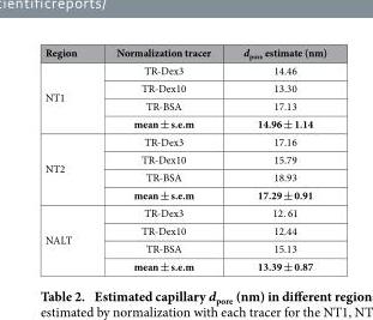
<table><thead><tr><td>Region</td><td>Normalization tracer</td><td>d<sub>pore</sub> estimate (nm)</td></tr></thead><tbody><tr><td rowspan="4">NT1</td><td>TR-Dex3</td><td>14.46</td></tr><tr><td>TR-Dex10</td><td>13.30</td></tr><tr><td>TR-BSA</td><td>17.13</td></tr><tr><td>mean ± s.e.m</td><td>14.96 ± 1.14</td></tr><tr><td rowspan="4">NT2</td><td>TR-Dex3</td><td>17.16</td></tr><tr><td>TR-Dex10</td><td>15.79</td></tr><tr><td>TR-BSA</td><td>18.93</td></tr><tr><td>mean ± s.e.m</td><td>17.29 ± 0.91</td></tr><tr><td rowspan="4">NALT</td><td>TR-Dex3</td><td>12. 61</td></tr><tr><td>TR-Dex10</td><td>12.44</td></tr><tr><td>TR-BSA</td><td>15.13</td></tr><tr><td>mean ± s.e.m</td><td>13.39 ± 0.87</td></tr></tbody></table>